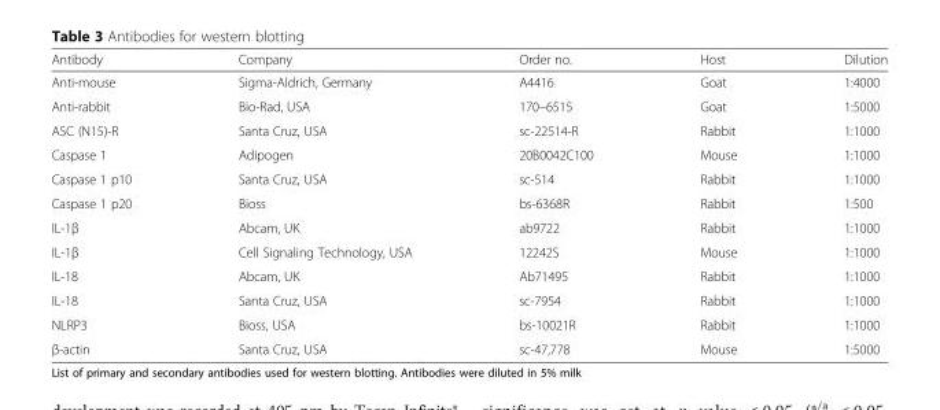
<table><thead><tr><td>Antibody</td><td>Company</td><td>Order no.</td><td>Host</td><td>Dilution</td></tr></thead><tbody><tr><td>Anti-mouse</td><td>Sigma-Aldrich, Germany</td><td>A4416</td><td>Goat</td><td>1:4000</td></tr><tr><td>Anti-rabbit</td><td>Bio-Rad, USA</td><td>170–6515</td><td>Goat</td><td>1:5000</td></tr><tr><td>ASC (N15)-R</td><td>Santa Cruz, USA</td><td>sc-22514-R</td><td>Rabbit</td><td>1:1000</td></tr><tr><td>Caspase 1</td><td>Adipogen</td><td>20B0042C100</td><td>Mouse</td><td>1:1000</td></tr><tr><td>Caspase 1 p10</td><td>Santa Cruz, USA</td><td>sc-514</td><td>Rabbit</td><td>1:1000</td></tr><tr><td>Caspase 1 p20</td><td>Bioss</td><td>bs-6368R</td><td>Rabbit</td><td>1:500</td></tr><tr><td>IL-1β</td><td>Abcam, UK</td><td>ab9722</td><td>Rabbit</td><td>1:1000</td></tr><tr><td>IL-1β</td><td>Cell Signaling Technology, USA</td><td>12242S</td><td>Mouse</td><td>1:1000</td></tr><tr><td>IL-18</td><td>Abcam, UK</td><td>Ab71495</td><td>Rabbit</td><td>1:1000</td></tr><tr><td>IL-18</td><td>Santa Cruz, USA</td><td>sc-7954</td><td>Rabbit</td><td>1:1000</td></tr><tr><td>NLRP3</td><td>Bioss, USA</td><td>bs-10021R</td><td>Rabbit</td><td>1:1000</td></tr><tr><td>β-actin</td><td>Santa Cruz, USA</td><td>sc-47,778</td><td>Mouse</td><td>1:5000</td></tr></tbody></table>